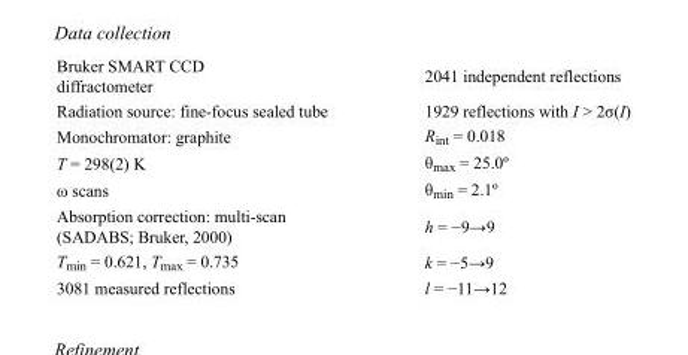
<table><tbody><tr><td>Bruker SMART CCD diffractometer</td><td>2041 independent reflections</td></tr><tr><td>Radiation source: fine-focus sealed tube</td><td>1929 reflections with I &gt; 2σ(I)</td></tr><tr><td>Monochromator: graphite</td><td>R<sub>int</sub> = 0.018</td></tr><tr><td>T = 298(2) K</td><td>θ<sub>max</sub> = 25.0º</td></tr><tr><td>ω scans</td><td>θ<sub>min</sub> = 2.1º</td></tr><tr><td>Absorption correction: multi-scan (SADABS; Bruker, 2000)</td><td>h = −9→9</td></tr><tr><td>T<sub>min</sub> = 0.621, T<sub>max</sub> = 0.735</td><td>k = −5→9</td></tr><tr><td>3081 measured reflections</td><td>l = −11→12</td></tr></tbody></table>